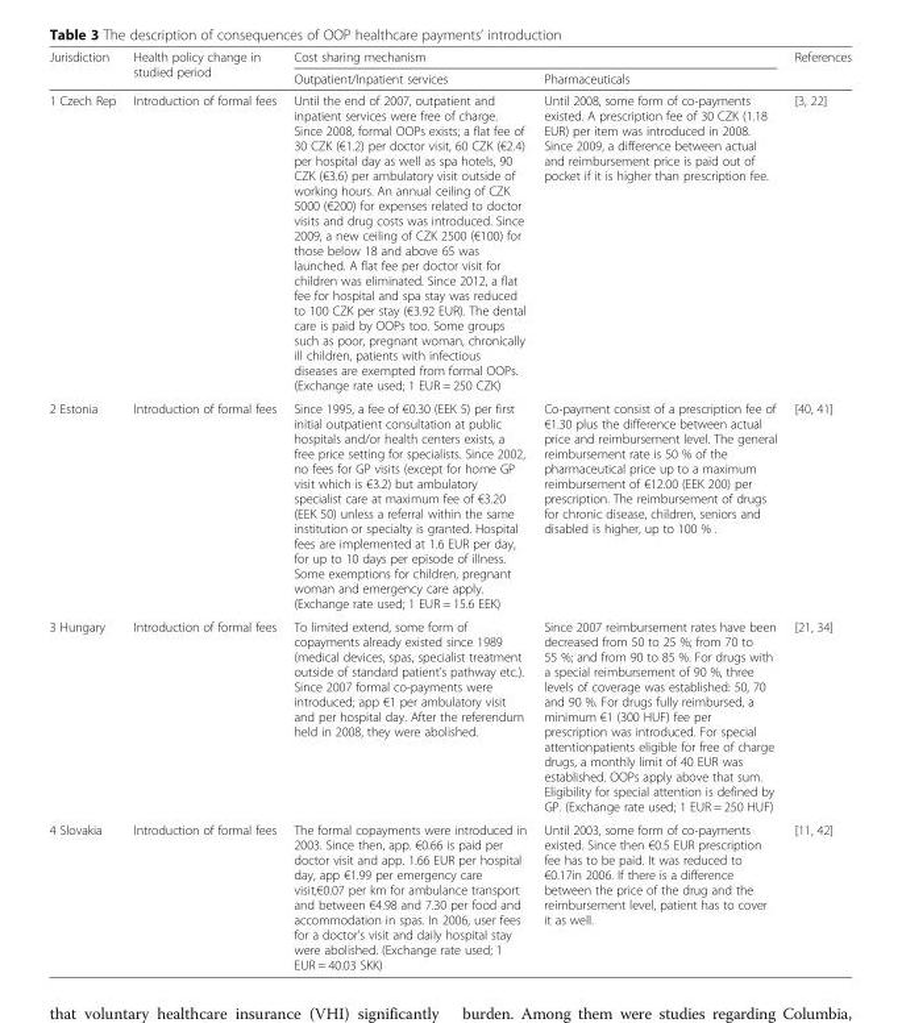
<table><thead><tr><td rowspan="2">Jurisdiction</td><td rowspan="2">Health policy change in studied period</td><td colspan="2">Cost sharing mechanism</td><td rowspan="2">References</td></tr><tr><td>Outpatient/Inpatient services</td><td>Pharmaceuticals</td></tr></thead><tbody><tr><td>1 Czech Rep</td><td>Introduction of formal fees</td><td>Until the end of 2007, outpatient and inpatient services were free of charge. Since 2008, formal OOPs exists; a flat fee of 30 CZK (€1.2) per doctor visit, 60 CZK (€2.4) per hospital day as well as spa hotels, 90 CZK (€3.6) per ambulatory visit outside of working hours. An annual ceiling of CZK 5000 (€200) for expenses related to doctor visits and drug costs was introduced. Since 2009, a new ceiling of CZK 2500 (€100) for those below 18 and above 65 was launched. A flat fee per doctor visit for children was eliminated. Since 2012, a flat fee for hospital and spa stay was reduced to 100 CZK per stay (€3.92 EUR). The dental care is paid by OOPs too. Some groups such as poor, pregnant woman, chronically ill children, patients with infectious diseases are exempted from formal OOPs. (Exchange rate used; 1 EUR = 250 CZK)</td><td>Until 2008, some form of co-payments existed. A prescription fee of 30 CZK (1.18 EUR) per item was introduced in 2008. Since 2009, a difference between actual and reimbursement price is paid out of pocket if it is higher than prescription fee.</td><td>[3, 22]</td></tr><tr><td>2 Estonia</td><td>Introduction of formal fees</td><td>Since 1995, a fee of €0.30 (EEK 5) per first initial outpatient consultation at public hospitals and/or health centers exists, a free price setting for specialists. Since 2002, no fees for GP visits (except for home GP visit which is €3.2) but ambulatory specialist care at maximum fee of €3.20 (EEK 50) unless a referral within the same institution or specialty is granted. Hospital fees are implemented at 1.6 EUR per day, for up to 10 days per episode of illness. Some exemptions for children, pregnant woman and emergency care apply. (Exchange rate used; 1 EUR = 15.6 EEK)</td><td>Co-payment consist of a prescription fee of €1.30 plus the difference between actual price and reimbursement level. The general reimbursement rate is 50 % of the pharmaceutical price up to a maximum reimbursement of €12.00 (EEK 200) per prescription. The reimbursement of drugs for chronic disease, children, seniors and disabled is higher, up to 100 % .</td><td>[40, 41]</td></tr><tr><td>3 Hungary</td><td>Introduction of formal fees</td><td>To limited extend, some form of copayments already existed since 1989 (medical devices, spas, specialist treatment outside of standard patient’s pathway etc.). Since 2007 formal co-payments were introduced; app €1 per ambulatory visit and per hospital day. After the referendum held in 2008, they were abolished.</td><td>Since 2007 reimbursement rates have been decreased from 50 to 25 %; from 70 to 55 %; and from 90 to 85 %. For drugs with a special reimbursement of 90 %, three levels of coverage was established: 50, 70 and 90 %. For drugs fully reimbursed, a minimum €1 (300 HUF) fee per prescription was introduced. For special attentionpatients eligible for free of charge drugs, a monthly limit of 40 EUR was established. OOPs apply above that sum. Eligibility for special attention is defined by GP. (Exchange rate used; 1 EUR = 250 HUF)</td><td>[21, 34]</td></tr><tr><td>4 Slovakia</td><td>Introduction of formal fees</td><td>The formal copayments were introduced in 2003. Since then, app. €0.66 is paid per doctor visit and app. 1.66 EUR per hospital day, app €1.99 per emergency care visit,€0.07 per km for ambulance transport and between €4.98 and 7.30 per food and accommodation in spas. In 2006, user fees for a doctor’s visit and daily hospital stay were abolished. (Exchange rate used; 1 EUR = 40.03 SKK)</td><td>Until 2003, some form of co-payments existed. Since then €0.5 EUR prescription fee has to be paid. It was reduced to €0.17in 2006. If there is a difference between the price of the drug and the reimbursement level, patient has to cover it as well.</td><td>[11, 42]</td></tr></tbody></table>